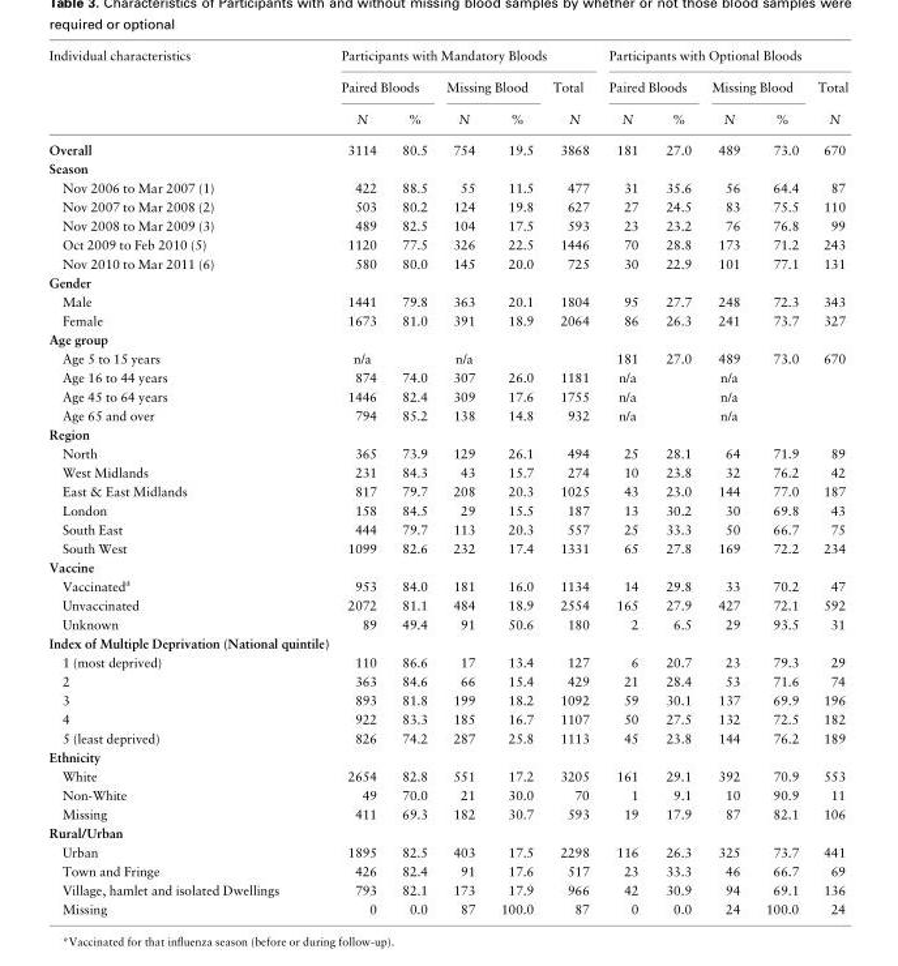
<table><thead><tr><td rowspan="3">Individual characteristics</td><td colspan="5">Participants with Mandatory Bloods</td><td colspan="5">Participants with Optional Bloods</td></tr><tr><td colspan="2">Paired Bloods</td><td colspan="2">Missing Blood</td><td rowspan="2">Total N</td><td colspan="2">Paired Bloods</td><td colspan="2">Missing Blood</td><td rowspan="2">Total N</td></tr><tr><td>N</td><td>%</td><td>N</td><td>%</td><td>N</td><td>%</td><td>N</td><td>%</td></tr></thead><tbody><tr><td>Overall</td><td>3114</td><td>80.5</td><td>754</td><td>19.5</td><td>3868</td><td>181</td><td>27.0</td><td>489</td><td>73.0</td><td>670</td></tr><tr><td colspan="11">Season</td></tr><tr><td>Nov 2006 to Mar 2007 (1)</td><td>422</td><td>88.5</td><td>55</td><td>11.5</td><td>477</td><td>31</td><td>35.6</td><td>56</td><td>64.4</td><td>87</td></tr><tr><td>Nov 2007 to Mar 2008 (2)</td><td>503</td><td>80.2</td><td>124</td><td>19.8</td><td>627</td><td>27</td><td>24.5</td><td>83</td><td>75.5</td><td>110</td></tr><tr><td>Nov 2008 to Mar 2009 (3)</td><td>489</td><td>82.5</td><td>104</td><td>17.5</td><td>593</td><td>23</td><td>23.2</td><td>76</td><td>76.8</td><td>99</td></tr><tr><td>Oct 2009 to Feb 2010 (5)</td><td>1120</td><td>77.5</td><td>326</td><td>22.5</td><td>1446</td><td>70</td><td>28.8</td><td>173</td><td>71.2</td><td>243</td></tr><tr><td>Nov 2010 to Mar 2011 (6)</td><td>580</td><td>80.0</td><td>145</td><td>20.0</td><td>725</td><td>30</td><td>22.9</td><td>101</td><td>77.1</td><td>131</td></tr><tr><td colspan="11">Gender</td></tr><tr><td>Male</td><td>1441</td><td>79.8</td><td>363</td><td>20.1</td><td>1804</td><td>95</td><td>27.7</td><td>248</td><td>72.3</td><td>343</td></tr><tr><td>Female</td><td>1673</td><td>81.0</td><td>391</td><td>18.9</td><td>2064</td><td>86</td><td>26.3</td><td>241</td><td>73.7</td><td>327</td></tr><tr><td colspan="11">Age group</td></tr><tr><td>Age 5 to 15 years</td><td>n/a</td><td></td><td>n/a</td><td></td><td></td><td>181</td><td>27.0</td><td>489</td><td>73.0</td><td>670</td></tr><tr><td>Age 16 to 44 years</td><td>874</td><td>74.0</td><td>307</td><td>26.0</td><td>1181</td><td>n/a</td><td></td><td>n/a</td><td></td><td></td></tr><tr><td>Age 45 to 64 years</td><td>1446</td><td>82.4</td><td>309</td><td>17.6</td><td>1755</td><td>n/a</td><td></td><td>n/a</td><td></td><td></td></tr><tr><td>Age 65 and over</td><td>794</td><td>85.2</td><td>138</td><td>14.8</td><td>932</td><td>n/a</td><td></td><td>n/a</td><td></td><td></td></tr><tr><td colspan="11">Region</td></tr><tr><td>North</td><td>365</td><td>73.9</td><td>129</td><td>26.1</td><td>494</td><td>25</td><td>28.1</td><td>64</td><td>71.9</td><td>89</td></tr><tr><td>West Midlands</td><td>231</td><td>84.3</td><td>43</td><td>15.7</td><td>274</td><td>10</td><td>23.8</td><td>32</td><td>76.2</td><td>42</td></tr><tr><td>East &amp; East Midlands</td><td>817</td><td>79.7</td><td>208</td><td>20.3</td><td>1025</td><td>43</td><td>23.0</td><td>144</td><td>77.0</td><td>187</td></tr><tr><td>London</td><td>158</td><td>84.5</td><td>29</td><td>15.5</td><td>187</td><td>13</td><td>30.2</td><td>30</td><td>69.8</td><td>43</td></tr><tr><td>South East</td><td>444</td><td>79.7</td><td>113</td><td>20.3</td><td>557</td><td>25</td><td>33.3</td><td>50</td><td>66.7</td><td>75</td></tr><tr><td>South West</td><td>1099</td><td>82.6</td><td>232</td><td>17.4</td><td>1331</td><td>65</td><td>27.8</td><td>169</td><td>72.2</td><td>234</td></tr><tr><td colspan="11">Vaccine</td></tr><tr><td>Vaccinated<sup>a</sup></td><td>953</td><td>84.0</td><td>181</td><td>16.0</td><td>1134</td><td>14</td><td>29.8</td><td>33</td><td>70.2</td><td>47</td></tr><tr><td>Unvaccinated</td><td>2072</td><td>81.1</td><td>484</td><td>18.9</td><td>2554</td><td>165</td><td>27.9</td><td>427</td><td>72.1</td><td>592</td></tr><tr><td>Unknown</td><td>89</td><td>49.4</td><td>91</td><td>50.6</td><td>180</td><td>2</td><td>6.5</td><td>29</td><td>93.5</td><td>31</td></tr><tr><td colspan="11">Index of Multiple Deprivation (National quintile)</td></tr><tr><td>1 (most deprived)</td><td>110</td><td>86.6</td><td>17</td><td>13.4</td><td>127</td><td>6</td><td>20.7</td><td>23</td><td>79.3</td><td>29</td></tr><tr><td>2</td><td>363</td><td>84.6</td><td>66</td><td>15.4</td><td>429</td><td>21</td><td>28.4</td><td>53</td><td>71.6</td><td>74</td></tr><tr><td>3</td><td>893</td><td>81.8</td><td>199</td><td>18.2</td><td>1092</td><td>59</td><td>30.1</td><td>137</td><td>69.9</td><td>196</td></tr><tr><td>4</td><td>922</td><td>83.3</td><td>185</td><td>16.7</td><td>1107</td><td>50</td><td>27.5</td><td>132</td><td>72.5</td><td>182</td></tr><tr><td>5 (least deprived)</td><td>826</td><td>74.2</td><td>287</td><td>25.8</td><td>1113</td><td>45</td><td>23.8</td><td>144</td><td>76.2</td><td>189</td></tr><tr><td colspan="11">Ethnicity</td></tr><tr><td>White</td><td>2654</td><td>82.8</td><td>551</td><td>17.2</td><td>3205</td><td>161</td><td>29.1</td><td>392</td><td>70.9</td><td>553</td></tr><tr><td>Non-White</td><td>49</td><td>70.0</td><td>21</td><td>30.0</td><td>70</td><td>1</td><td>9.1</td><td>10</td><td>90.9</td><td>11</td></tr><tr><td>Missing</td><td>411</td><td>69.3</td><td>182</td><td>30.7</td><td>593</td><td>19</td><td>17.9</td><td>87</td><td>82.1</td><td>106</td></tr><tr><td colspan="11">Rural/Urban</td></tr><tr><td>Urban</td><td>1895</td><td>82.5</td><td>403</td><td>17.5</td><td>2298</td><td>116</td><td>26.3</td><td>325</td><td>73.7</td><td>441</td></tr><tr><td>Town and Fringe</td><td>426</td><td>82.4</td><td>91</td><td>17.6</td><td>517</td><td>23</td><td>33.3</td><td>46</td><td>66.7</td><td>69</td></tr><tr><td>Village, hamlet and isolated Dwellings</td><td>793</td><td>82.1</td><td>173</td><td>17.9</td><td>966</td><td>42</td><td>30.9</td><td>94</td><td>69.1</td><td>136</td></tr><tr><td>Missing</td><td>0</td><td>0.0</td><td>87</td><td>100.0</td><td>87</td><td>0</td><td>0.0</td><td>24</td><td>100.0</td><td>24</td></tr></tbody></table>